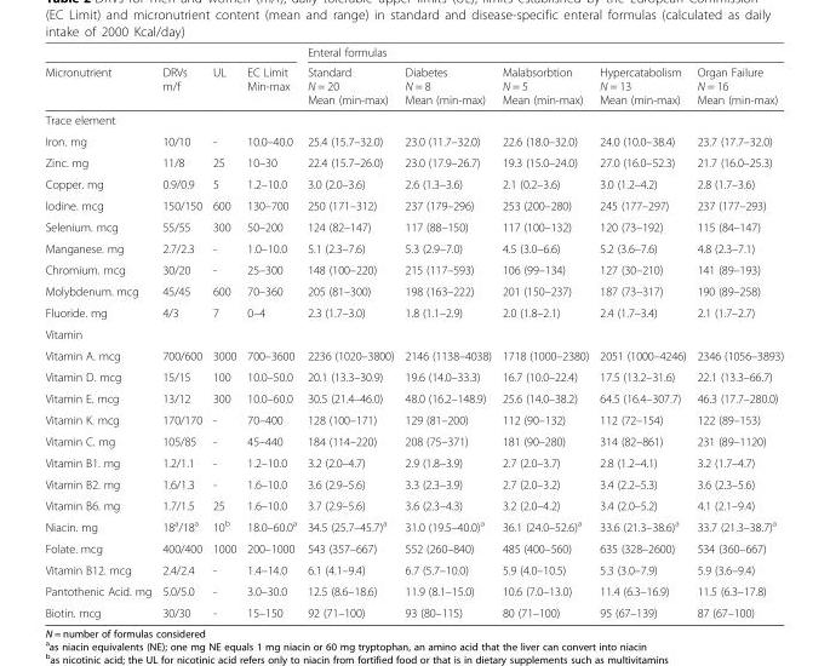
<table><thead><tr><td rowspan="2">Micronutrient</td><td rowspan="2">DRVs m/f</td><td rowspan="2">UL</td><td rowspan="2">EC Limit Min-max</td><td colspan="5">Enteral formulas</td></tr><tr><td>Standard N = 20 Mean (min-max)</td><td>Diabetes N = 8 Mean (min-max)</td><td>Malabsorbtion N = 5 Mean (min-max)</td><td>Hypercatabolism N = 13 Mean (min-max)</td><td>Organ Failure N = 16 Mean (min-max)</td></tr></thead><tbody><tr><td colspan="9">Trace element</td></tr><tr><td>Iron. mg</td><td>10/10</td><td>-</td><td>10.0–40.0</td><td>25.4 (15.7–32.0)</td><td>23.0 (11.7–32.0)</td><td>22.6 (18.0–32.0)</td><td>24.0 (10.0–38.4)</td><td>23.7 (17.7–32.0)</td></tr><tr><td>Zinc. mg</td><td>11/8</td><td>25</td><td>10–30</td><td>22.4 (15.7–26.0)</td><td>23.0 (17.9–26.7)</td><td>19.3 (15.0–24.0)</td><td>27.0 (16.0–52.3)</td><td>21.7 (16.0–25.3)</td></tr><tr><td>Copper. mg</td><td>0.9/0.9</td><td>5</td><td>1.2–10.0</td><td>3.0 (2.0–3.6)</td><td>2.6 (1.3–3.6)</td><td>2.1 (0.2–3.6)</td><td>3.0 (1.2–4.2)</td><td>2.8 (1.7–3.6)</td></tr><tr><td>Iodine. mcg</td><td>150/150</td><td>600</td><td>130–700</td><td>250 (171–312)</td><td>237 (179–296)</td><td>253 (200–280)</td><td>245 (177–297)</td><td>237 (177–293)</td></tr><tr><td>Selenium. mcg</td><td>55/55</td><td>300</td><td>50–200</td><td>124 (82–147)</td><td>117 (88–150)</td><td>117 (100–132)</td><td>120 (73–192)</td><td>115 (84–147)</td></tr><tr><td>Manganese. mg</td><td>2.7/2.3</td><td>-</td><td>1.0–10.0</td><td>5.1 (2.3–7.6)</td><td>5.3 (2.9–7.0)</td><td>4.5 (3.0–6.6)</td><td>5.2 (3.6–7.6)</td><td>4.8 (2.3–7.1)</td></tr><tr><td>Chromium. mcg</td><td>30/20</td><td>-</td><td>25–300</td><td>148 (100–220)</td><td>215 (117–593)</td><td>106 (99–134)</td><td>127 (30–210)</td><td>141 (89–193)</td></tr><tr><td>Molybdenum. mcg</td><td>45/45</td><td>600</td><td>70–360</td><td>205 (81–300)</td><td>198 (163–222)</td><td>201 (150–237)</td><td>187 (73–317)</td><td>190 (89–258)</td></tr><tr><td>Fluoride. mg</td><td>4/3</td><td>7</td><td>0–4</td><td>2.3 (1.7–3.0)</td><td>1.8 (1.1–2.9)</td><td>2.0 (1.8–2.1)</td><td>2.4 (1.7–3.4)</td><td>2.1 (1.7–2.7)</td></tr><tr><td colspan="9">Vitamin</td></tr><tr><td>Vitamin A. mcg</td><td>700/600</td><td>3000</td><td>700–3600</td><td>2236 (1020–3800)</td><td>2146 (1138–4038)</td><td>1718 (1000–2380)</td><td>2051 (1000–4246)</td><td>2346 (1056–3893)</td></tr><tr><td>Vitamin D. mcg</td><td>15/15</td><td>100</td><td>10.0–50.0</td><td>20.1 (13.3–30.9)</td><td>19.6 (14.0–33.3)</td><td>16.7 (10.0–22.4)</td><td>17.5 (13.2–31.6)</td><td>22.1 (13.3–66.7)</td></tr><tr><td>Vitamin E. mcg</td><td>13/12</td><td>300</td><td>10.0–60.0</td><td>30.5 (21.4–46.0)</td><td>48.0 (16.2–148.9)</td><td>25.6 (14.0–38.2)</td><td>64.5 (16.4–307.7)</td><td>46.3 (17.7–280.0)</td></tr><tr><td>Vitamin K. mcg</td><td>170/170</td><td>-</td><td>70–400</td><td>128 (100–171)</td><td>129 (81–200)</td><td>112 (90–132)</td><td>112 (72–154)</td><td>122 (89–153)</td></tr><tr><td>Vitamin C. mg</td><td>105/85</td><td>-</td><td>45–440</td><td>184 (114–220)</td><td>208 (75–371)</td><td>181 (90–280)</td><td>314 (82–861)</td><td>231 (89–1120)</td></tr><tr><td>Vitamin B1. mg</td><td>1.2/1.1</td><td>-</td><td>1.2–10.0</td><td>3.2 (2.0–4.7)</td><td>2.9 (1.8–3.9)</td><td>2.7 (2.0–3.7)</td><td>2.8 (1.2–4.1)</td><td>3.2 (1.7–4.7)</td></tr><tr><td>Vitamin B2. mg</td><td>1.6/1.3</td><td>-</td><td>1.6–10.0</td><td>3.6 (2.9–5.6)</td><td>3.3 (2.3–3.9)</td><td>2.7 (2.0–3.2)</td><td>3.4 (2.2–5.3)</td><td>3.6 (2.3–5.6)</td></tr><tr><td>Vitamin B6. mg</td><td>1.7/1.5</td><td>25</td><td>1.6–10.0</td><td>3.7 (2.9–5.6)</td><td>3.6 (2.3–4.3)</td><td>3.2 (2.0–4.2)</td><td>3.4 (2.0–5.2)</td><td>4.1 (2.1–9.4)</td></tr><tr><td>Niacin. mg</td><td>18<sup>a</sup>/18<sup>a</sup></td><td>10<sup>b</sup></td><td>18.0–60.0<sup>a</sup></td><td>34.5 (25.7–45.7)<sup>a</sup></td><td>31.0 (19.5–40.0)<sup>a</sup></td><td>36.1 (24.0–52.6)<sup>a</sup></td><td>33.6 (21.3–38.6)<sup>a</sup></td><td>33.7 (21.3–38.7)<sup>a</sup></td></tr><tr><td>Folate. mcg</td><td>400/400</td><td>1000</td><td>200–1000</td><td>543 (357–667)</td><td>552 (260–840)</td><td>485 (400–560)</td><td>635 (328–2600)</td><td>534 (360–667)</td></tr><tr><td>Vitamin B12. mcg</td><td>2.4/2.4</td><td>-</td><td>1.4–14.0</td><td>6.1 (4.1–9.4)</td><td>6.7 (5.7–10.0)</td><td>5.9 (4.0–10.5)</td><td>5.3 (3.0–7.9)</td><td>5.9 (3.6–9.4)</td></tr><tr><td>Pantothenic Acid. mg</td><td>5.0/5.0</td><td>-</td><td>3.0–30.0</td><td>12.5 (8.6–18.6)</td><td>11.9 (8.1–15.0)</td><td>10.6 (7.0–13.0)</td><td>11.4 (6.3–16.9)</td><td>11.5 (6.3–17.8)</td></tr><tr><td>Biotin. mcg</td><td>30/30</td><td>-</td><td>15–150</td><td>92 (71–100)</td><td>93 (80–115)</td><td>80 (71–100)</td><td>95 (67–139)</td><td>87 (67–100)</td></tr></tbody></table>